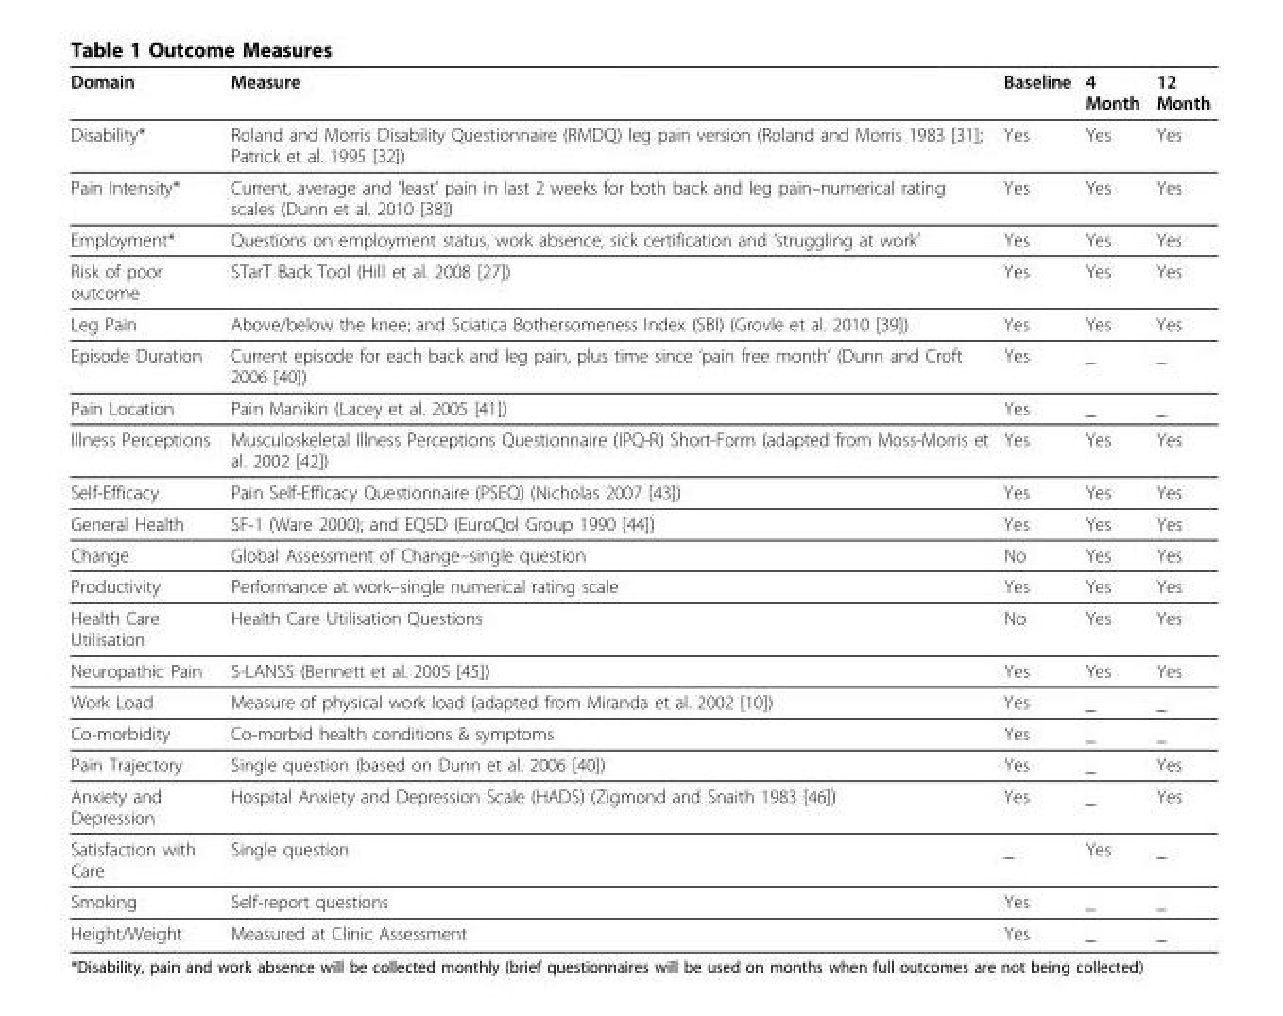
<table><thead><tr><td>Domain</td><td>Measure</td><td>Baseline</td><td>4 Month</td><td>12 Month</td></tr></thead><tbody><tr><td>Disability*</td><td>Roland and Morris Disability Questionnaire (RMDQ) leg pain version (Roland and Morris 1983 [31]; Patrick et al. 1995 [32])</td><td>Yes</td><td>Yes</td><td>Yes</td></tr><tr><td>Pain Intensity*</td><td>Current, average and ‘least’ pain in last 2 weeks for both back and leg pain–numerical rating scales (Dunn et al. 2010 [38])</td><td>Yes</td><td>Yes</td><td>Yes</td></tr><tr><td>Employment*</td><td>Questions on employment status, work absence, sick certification and ‘struggling at work’</td><td>Yes</td><td>Yes</td><td>Yes</td></tr><tr><td>Risk of poor outcome</td><td>STarT Back Tool (Hill et al. 2008 [27])</td><td>Yes</td><td>Yes</td><td>Yes</td></tr><tr><td>Leg Pain</td><td>Above/below the knee; and Sciatica Bothersomeness Index (SBI) (Grovle et al. 2010 [39])</td><td>Yes</td><td>Yes</td><td>Yes</td></tr><tr><td>Episode Duration</td><td>Current episode for each back and leg pain, plus time since ‘pain free month’ (Dunn and Croft 2006 [40])</td><td>Yes</td><td>_</td><td>_</td></tr><tr><td>Pain Location</td><td>Pain Manikin (Lacey et al. 2005 [41])</td><td>Yes</td><td>_</td><td>_</td></tr><tr><td>Illness Perceptions</td><td>Musculoskeletal Illness Perceptions Questionnaire (IPQ-R) Short-Form (adapted from Moss-Morris et al. 2002 [42])</td><td>Yes</td><td>Yes</td><td>Yes</td></tr><tr><td>Self-Efficacy</td><td>Pain Self-Efficacy Questionnaire (PSEQ) (Nicholas 2007 [43])</td><td>Yes</td><td>Yes</td><td>Yes</td></tr><tr><td>General Health</td><td>SF-1 (Ware 2000); and EQ5D (EuroQol Group 1990 [44])</td><td>Yes</td><td>Yes</td><td>Yes</td></tr><tr><td>Change</td><td>Global Assessment of Change–single question</td><td>No</td><td>Yes</td><td>Yes</td></tr><tr><td>Productivity</td><td>Performance at work–single numerical rating scale</td><td>Yes</td><td>Yes</td><td>Yes</td></tr><tr><td>Health Care Utilisation</td><td>Health Care Utilisation Questions</td><td>No</td><td>Yes</td><td>Yes</td></tr><tr><td>Neuropathic Pain</td><td>S-LANSS (Bennett et al. 2005 [45])</td><td>Yes</td><td>Yes</td><td>Yes</td></tr><tr><td>Work Load</td><td>Measure of physical work load (adapted from Miranda et al. 2002 [10])</td><td>Yes</td><td>_</td><td>_</td></tr><tr><td>Co-morbidity</td><td>Co-morbid health conditions &amp; symptoms</td><td>Yes</td><td>_</td><td>_</td></tr><tr><td>Pain Trajectory</td><td>Single question (based on Dunn et al. 2006 [40])</td><td>Yes</td><td>_</td><td>Yes</td></tr><tr><td>Anxiety and Depression</td><td>Hospital Anxiety and Depression Scale (HADS) (Zigmond and Snaith 1983 [46])</td><td>Yes</td><td>_</td><td>Yes</td></tr><tr><td>Satisfaction with Care</td><td>Single question</td><td>_</td><td>Yes</td><td>_</td></tr><tr><td>Smoking</td><td>Self-report questions</td><td>Yes</td><td>_</td><td>_</td></tr><tr><td>Height/Weight</td><td>Measured at Clinic Assessment</td><td>Yes</td><td>_</td><td>_</td></tr></tbody></table>